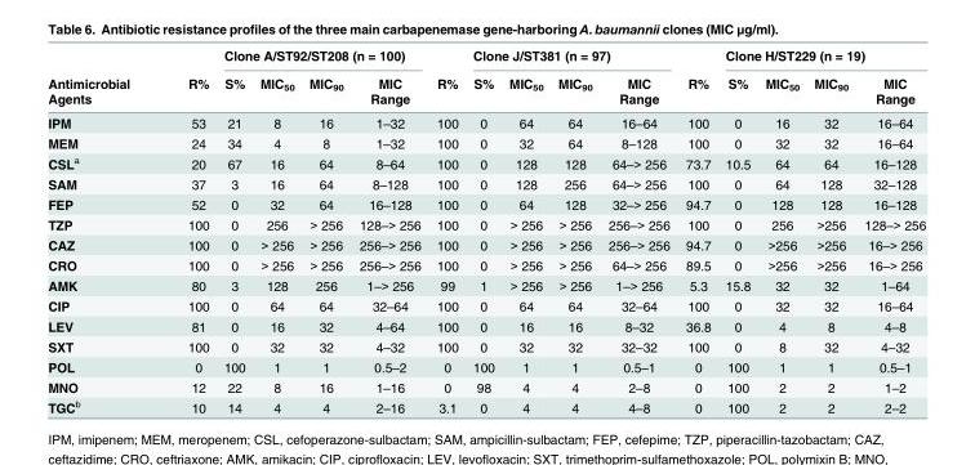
<table><thead><tr><td rowspan="2">Antimicrobial Agents</td><td rowspan="2">R%</td><td colspan="4">Clone A/ST92/ST208 (n = 100)</td><td rowspan="2">R%</td><td colspan="4">Clone J/ST381 (n = 97)</td><td rowspan="2">R%</td><td colspan="4">Clone H/ST229 (n = 19)</td></tr><tr><td>S%</td><td>MIC<sub>50</sub></td><td>MIC<sub>90</sub></td><td>MIC Range</td><td>S%</td><td>MIC<sub>50</sub></td><td>MIC<sub>90</sub></td><td>MIC Range</td><td>S%</td><td>MIC<sub>50</sub></td><td>MIC<sub>90</sub></td><td>MIC Range</td></tr></thead><tbody><tr><td>IPM</td><td>53</td><td>21</td><td>8</td><td>16</td><td>1–32</td><td>100</td><td>0</td><td>64</td><td>64</td><td>16–64</td><td>100</td><td>0</td><td>16</td><td>32</td><td>16–64</td></tr><tr><td>MEM</td><td>24</td><td>34</td><td>4</td><td>8</td><td>1–32</td><td>100</td><td>0</td><td>32</td><td>64</td><td>8–128</td><td>100</td><td>0</td><td>32</td><td>32</td><td>16–64</td></tr><tr><td>CSL<sup>a</sup></td><td>20</td><td>67</td><td>16</td><td>64</td><td>8–64</td><td>100</td><td>0</td><td>128</td><td>128</td><td>64–&gt; 256</td><td>73.7</td><td>10.5</td><td>64</td><td>64</td><td>16–128</td></tr><tr><td>SAM</td><td>37</td><td>3</td><td>16</td><td>64</td><td>8–128</td><td>100</td><td>0</td><td>128</td><td>256</td><td>64–&gt; 256</td><td>100</td><td>0</td><td>64</td><td>128</td><td>32–128</td></tr><tr><td>FEP</td><td>52</td><td>0</td><td>32</td><td>64</td><td>16–128</td><td>100</td><td>0</td><td>64</td><td>128</td><td>32–&gt; 256</td><td>94.7</td><td>0</td><td>128</td><td>128</td><td>16–128</td></tr><tr><td>TZP</td><td>100</td><td>0</td><td>256</td><td>&gt; 256</td><td>128–&gt; 256</td><td>100</td><td>0</td><td>&gt; 256</td><td>&gt; 256</td><td>256–&gt; 256</td><td>100</td><td>0</td><td>256</td><td>&gt;256</td><td>128–&gt; 256</td></tr><tr><td>CAZ</td><td>100</td><td>0</td><td>&gt; 256</td><td>&gt; 256</td><td>256–&gt; 256</td><td>100</td><td>0</td><td>&gt; 256</td><td>&gt; 256</td><td>256–&gt; 256</td><td>94.7</td><td>0</td><td>&gt;256</td><td>&gt;256</td><td>16–&gt; 256</td></tr><tr><td>CRO</td><td>100</td><td>0</td><td>&gt; 256</td><td>&gt; 256</td><td>256–&gt; 256</td><td>100</td><td>0</td><td>&gt; 256</td><td>&gt; 256</td><td>64–&gt; 256</td><td>89.5</td><td>0</td><td>&gt;256</td><td>&gt;256</td><td>16–&gt; 256</td></tr><tr><td>AMK</td><td>80</td><td>3</td><td>128</td><td>256</td><td>1–&gt; 256</td><td>99</td><td>1</td><td>&gt; 256</td><td>&gt; 256</td><td>1–&gt; 256</td><td>5.3</td><td>15.8</td><td>32</td><td>32</td><td>1–64</td></tr><tr><td>CIP</td><td>100</td><td>0</td><td>64</td><td>64</td><td>32–64</td><td>100</td><td>0</td><td>64</td><td>64</td><td>32–64</td><td>100</td><td>0</td><td>32</td><td>32</td><td>16–64</td></tr><tr><td>LEV</td><td>81</td><td>0</td><td>16</td><td>32</td><td>4–64</td><td>100</td><td>0</td><td>16</td><td>16</td><td>8–32</td><td>36.8</td><td>0</td><td>4</td><td>8</td><td>4–8</td></tr><tr><td>SXT</td><td>100</td><td>0</td><td>32</td><td>32</td><td>4–32</td><td>100</td><td>0</td><td>32</td><td>32</td><td>32–32</td><td>100</td><td>0</td><td>8</td><td>32</td><td>4–32</td></tr><tr><td>POL</td><td>0</td><td>100</td><td>1</td><td>1</td><td>0.5–2</td><td>0</td><td>100</td><td>1</td><td>1</td><td>0.5–1</td><td>0</td><td>100</td><td>1</td><td>1</td><td>0.5–1</td></tr><tr><td>MNO</td><td>12</td><td>22</td><td>8</td><td>16</td><td>1–16</td><td>0</td><td>98</td><td>4</td><td>4</td><td>2–8</td><td>0</td><td>100</td><td>2</td><td>2</td><td>1–2</td></tr><tr><td>TGC<sup>b</sup></td><td>10</td><td>14</td><td>4</td><td>4</td><td>2–16</td><td>3.1</td><td>0</td><td>4</td><td>4</td><td>4–8</td><td>0</td><td>100</td><td>2</td><td>2</td><td>2–2</td></tr></tbody></table>